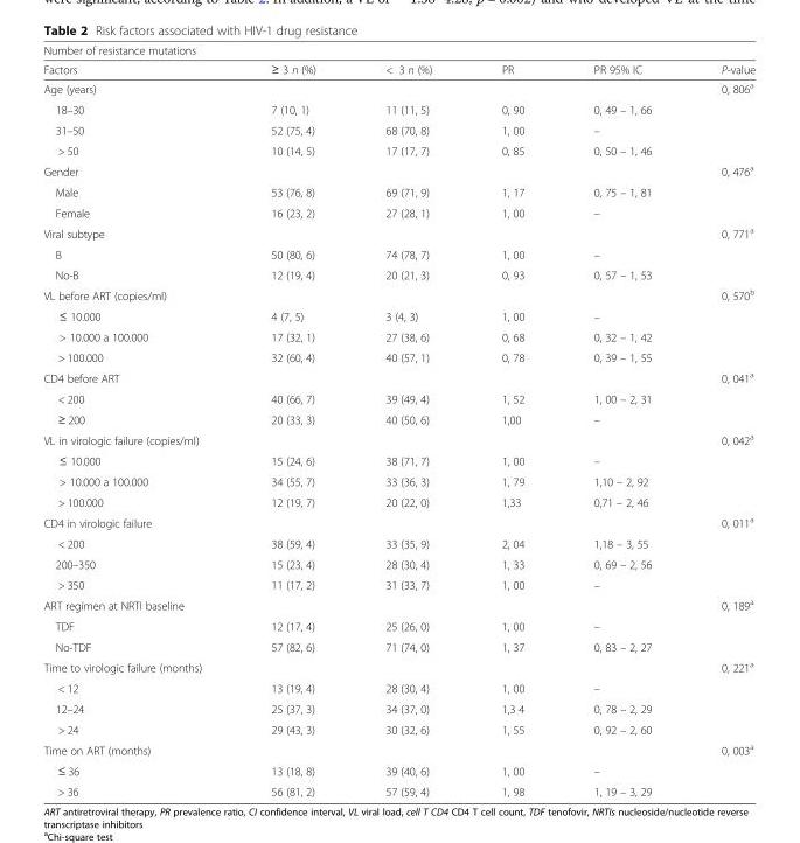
<table><thead><tr><td colspan="6">Number of resistance mutations</td></tr><tr><td>Factors</td><td>≥ 3 n (%)</td><td>&lt; 3 n (%)</td><td>PR</td><td>PR 95% IC</td><td>P-value</td></tr></thead><tbody><tr><td>Age (years)</td><td></td><td></td><td></td><td></td><td>0, 806<sup>a</sup></td></tr><tr><td>18–30</td><td>7 (10, 1)</td><td>11 (11, 5)</td><td>0, 90</td><td>0, 49 – 1, 66</td><td></td></tr><tr><td>31–50</td><td>52 (75, 4)</td><td>68 (70, 8)</td><td>1, 00</td><td>–</td><td></td></tr><tr><td>&gt; 50</td><td>10 (14, 5)</td><td>17 (17, 7)</td><td>0, 85</td><td>0, 50 – 1, 46</td><td></td></tr><tr><td>Gender</td><td></td><td></td><td></td><td></td><td>0, 476<sup>a</sup></td></tr><tr><td>Male</td><td>53 (76, 8)</td><td>69 (71, 9)</td><td>1, 17</td><td>0, 75 – 1, 81</td><td></td></tr><tr><td>Female</td><td>16 (23, 2)</td><td>27 (28, 1)</td><td>1, 00</td><td>–</td><td></td></tr><tr><td>Viral subtype</td><td></td><td></td><td></td><td></td><td>0, 771<sup>a</sup></td></tr><tr><td>B</td><td>50 (80, 6)</td><td>74 (78, 7)</td><td>1, 00</td><td>–</td><td></td></tr><tr><td>No-B</td><td>12 (19, 4)</td><td>20 (21, 3)</td><td>0, 93</td><td>0, 57 – 1, 53</td><td></td></tr><tr><td>VL before ART (copies/ml)</td><td></td><td></td><td></td><td></td><td>0, 570<sup>b</sup></td></tr><tr><td>≤ 10.000</td><td>4 (7, 5)</td><td>3 (4, 3)</td><td>1, 00</td><td>–</td><td></td></tr><tr><td>&gt; 10.000 a 100.000</td><td>17 (32, 1)</td><td>27 (38, 6)</td><td>0, 68</td><td>0, 32 – 1, 42</td><td></td></tr><tr><td>&gt; 100.000</td><td>32 (60, 4)</td><td>40 (57, 1)</td><td>0, 78</td><td>0, 39 – 1, 55</td><td></td></tr><tr><td>CD4 before ART</td><td></td><td></td><td></td><td></td><td>0, 041<sup>a</sup></td></tr><tr><td>&lt; 200</td><td>40 (66, 7)</td><td>39 (49, 4)</td><td>1, 52</td><td>1, 00 – 2, 31</td><td></td></tr><tr><td>≥ 200</td><td>20 (33, 3)</td><td>40 (50, 6)</td><td>1,00</td><td>–</td><td></td></tr><tr><td>VL in virologic failure (copies/ml)</td><td></td><td></td><td></td><td></td><td>0, 042<sup>a</sup></td></tr><tr><td>≤ 10.000</td><td>15 (24, 6)</td><td>38 (71, 7)</td><td>1, 00</td><td>–</td><td></td></tr><tr><td>&gt; 10.000 a 100.000</td><td>34 (55, 7)</td><td>33 (36, 3)</td><td>1, 79</td><td>1,10 – 2, 92</td><td></td></tr><tr><td>&gt; 100.000</td><td>12 (19, 7)</td><td>20 (22, 0)</td><td>1,33</td><td>0,71 – 2, 46</td><td></td></tr><tr><td>CD4 in virologic failure</td><td></td><td></td><td></td><td></td><td>0, 011<sup>a</sup></td></tr><tr><td>&lt; 200</td><td>38 (59, 4)</td><td>33 (35, 9)</td><td>2, 04</td><td>1,18 – 3, 55</td><td></td></tr><tr><td>200–350</td><td>15 (23, 4)</td><td>28 (30, 4)</td><td>1, 33</td><td>0, 69 – 2, 56</td><td></td></tr><tr><td>&gt; 350</td><td>11 (17, 2)</td><td>31 (33, 7)</td><td>1, 00</td><td>–</td><td></td></tr><tr><td>ART regímen at NRTI baseline</td><td></td><td></td><td></td><td></td><td>0, 189<sup>a</sup></td></tr><tr><td>TDF</td><td>12 (17, 4)</td><td>25 (26, 0)</td><td>1, 00</td><td>–</td><td></td></tr><tr><td>No-TDF</td><td>57 (82, 6)</td><td>71 (74, 0)</td><td>1, 37</td><td>0, 83 – 2, 27</td><td></td></tr><tr><td>Time to virologic failure (months)</td><td></td><td></td><td></td><td></td><td>0, 221<sup>a</sup></td></tr><tr><td>&lt; 12</td><td>13 (19, 4)</td><td>28 (30, 4)</td><td>1, 00</td><td>–</td><td></td></tr><tr><td>12–24</td><td>25 (37, 3)</td><td>34 (37, 0)</td><td>1,3 4</td><td>0, 78 – 2, 29</td><td></td></tr><tr><td>&gt; 24</td><td>29 (43, 3)</td><td>30 (32, 6)</td><td>1, 55</td><td>0, 92 – 2, 60</td><td></td></tr><tr><td>Time on ART (months)</td><td></td><td></td><td></td><td></td><td>0, 003<sup>a</sup></td></tr><tr><td>≤ 36</td><td>13 (18, 8)</td><td>39 (40, 6)</td><td>1, 00</td><td>–</td><td></td></tr><tr><td>&gt; 36</td><td>56 (81, 2)</td><td>57 (59, 4)</td><td>1, 98</td><td>1, 19 – 3, 29</td><td></td></tr></tbody></table>